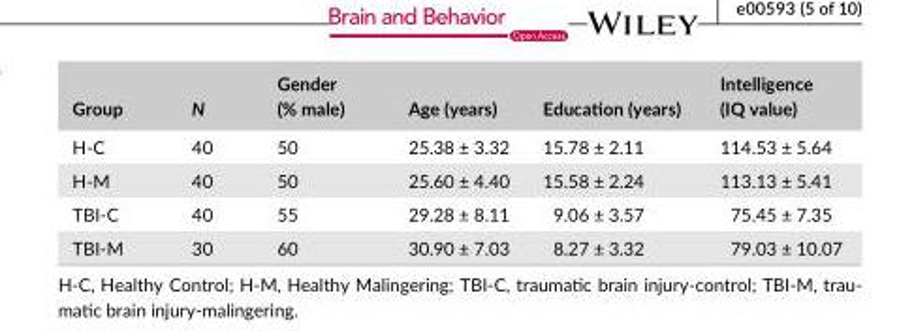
<table><thead><tr><td>Group</td><td>N</td><td>Gender (% male)</td><td>Age (years)</td><td>Education (years)</td><td>Intelligence (IQ value)</td></tr></thead><tbody><tr><td>H- C</td><td>40</td><td>50</td><td>25.38 ± 3.32</td><td>15.78 ± 2.11</td><td>114.53 ± 5.64</td></tr><tr><td>H- M</td><td>40</td><td>50</td><td>25.60 ± 4.40</td><td>15.58 ± 2.24</td><td>113.13 ± 5.41</td></tr><tr><td>TBI- C</td><td>40</td><td>55</td><td>29.28 ± 8.11</td><td>9.06 ± 3.57</td><td>75.45 ± 7.35</td></tr><tr><td>TBI- M</td><td>30</td><td>60</td><td>30.90 ± 7.03</td><td>8.27 ± 3.32</td><td>79.03 ± 10.07</td></tr></tbody></table>